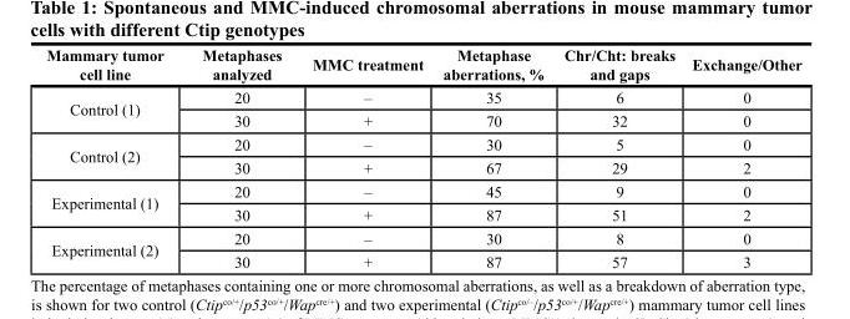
<table><thead><tr><td>Mammary tumor cell line</td><td>Metaphases analyzed</td><td>MMC treatment</td><td>Metaphase aberrations, %</td><td>Chr/Cht: breaks and gaps</td><td>Exchange/Other</td></tr></thead><tbody><tr><td rowspan="2">Control (1)</td><td>20</td><td>–</td><td>35</td><td>6</td><td>0</td></tr><tr><td>30</td><td>+</td><td>70</td><td>32</td><td>0</td></tr><tr><td rowspan="2">Control (2)</td><td>20</td><td>–</td><td>30</td><td>5</td><td>0</td></tr><tr><td>30</td><td>+</td><td>67</td><td>29</td><td>2</td></tr><tr><td rowspan="2">Experimental (1)</td><td>20</td><td>–</td><td>45</td><td>9</td><td>0</td></tr><tr><td>30</td><td>+</td><td>87</td><td>51</td><td>2</td></tr><tr><td rowspan="2">Experimental (2)</td><td>20</td><td>–</td><td>30</td><td>8</td><td>0</td></tr><tr><td>30</td><td>+</td><td>87</td><td>57</td><td>3</td></tr></tbody></table>